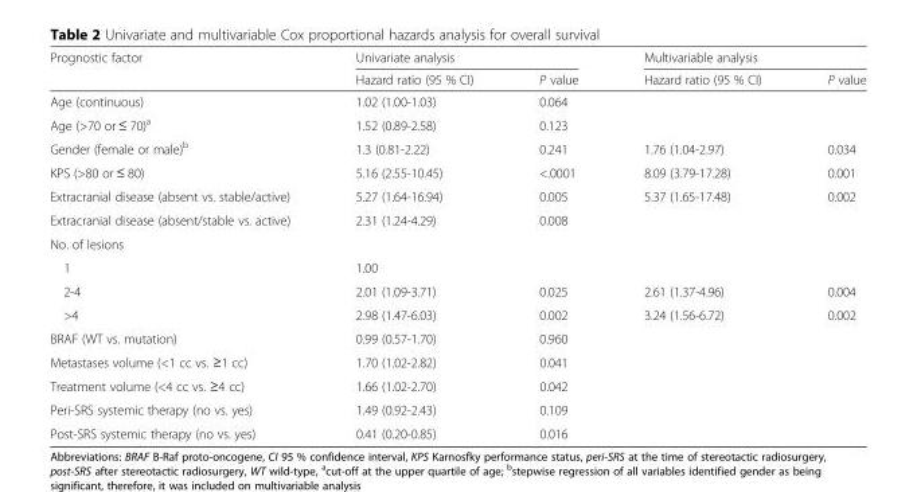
<table><thead><tr><td rowspan="2">Prognostic factor</td><td colspan="2">Univariate analysis</td><td colspan="2">Multivariable analysis</td></tr><tr><td>Hazard ratio (95 % CI)</td><td>P value</td><td>Hazard ratio (95 % CI)</td><td>P value</td></tr></thead><tbody><tr><td>Age (continuous)</td><td>1.02 (1.00-1.03)</td><td>0.064</td><td rowspan="2"></td><td rowspan="2"></td></tr><tr><td>Age (&gt;70 or ≤ 70)<sup>a</sup></td><td>1.52 (0.89-2.58)</td><td>0.123</td></tr><tr><td>Gender (female or male)<sup>b</sup></td><td>1.3 (0.81-2.22)</td><td>0.241</td><td>1.76 (1.04-2.97)</td><td>0.034</td></tr><tr><td>KPS (&gt;80 or ≤ 80)</td><td>5.16 (2.55-10.45)</td><td>&lt;.0001</td><td>8.09 (3.79-17.28)</td><td>0.001</td></tr><tr><td>Extracranial disease (absent vs. stable/active)</td><td>5.27 (1.64-16.94)</td><td>0.005</td><td>5.37 (1.65-17.48)</td><td>0.002</td></tr><tr><td>Extracranial disease (absent/stable vs. active)</td><td>2.31 (1.24-4.29)</td><td>0.008</td><td rowspan="3"></td><td rowspan="3"></td></tr><tr><td colspan="3">No. of lesions</td></tr><tr><td>1</td><td>1.00</td><td></td></tr><tr><td>2-4</td><td>2.01 (1.09-3.71)</td><td>0.025</td><td>2.61 (1.37-4.96)</td><td>0.004</td></tr><tr><td>&gt;4</td><td>2.98 (1.47-6.03)</td><td>0.002</td><td>3.24 (1.56-6.72)</td><td>0.002</td></tr><tr><td>BRAF (WT vs. mutation)</td><td>0.99 (0.57-1.70)</td><td>0.960</td><td rowspan="5"></td><td rowspan="5"></td></tr><tr><td>Metastases volume (&lt;1 cc vs. ≥1 cc)</td><td>1.70 (1.02-2.82)</td><td>0.041</td></tr><tr><td>Treatment volume (&lt;4 cc vs. ≥4 cc)</td><td>1.66 (1.02-2.70)</td><td>0.042</td></tr><tr><td>Peri-SRS systemic therapy (no vs. yes)</td><td>1.49 (0.92-2.43)</td><td>0.109</td></tr><tr><td>Post-SRS systemic therapy (no vs. yes)</td><td>0.41 (0.20-0.85)</td><td>0.016</td></tr></tbody></table>